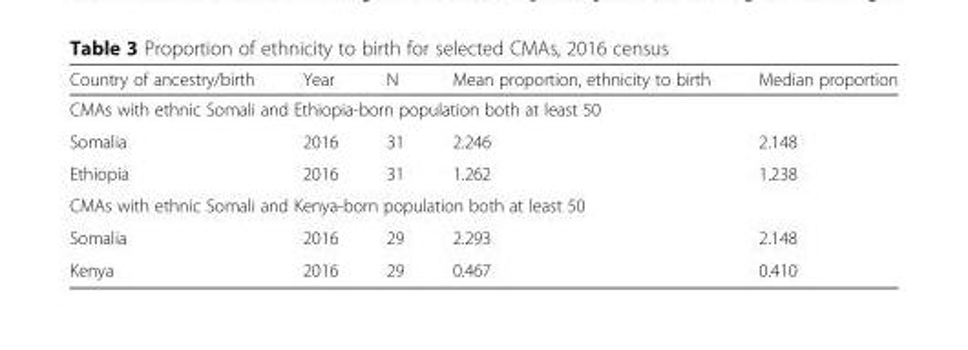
<table><thead><tr><td>Country of ancestry/birth</td><td>Year</td><td>N</td><td>Mean proportion, ethnicity to birth</td><td>Median proportion</td></tr></thead><tbody><tr><td colspan="5">CMAs with ethnic Somali and Ethiopia-born population both at least 50</td></tr><tr><td>Somalia</td><td>2016</td><td>31</td><td>2.246</td><td>2.148</td></tr><tr><td>Ethiopia</td><td>2016</td><td>31</td><td>1.262</td><td>1.238</td></tr><tr><td colspan="5">CMAs with ethnic Somali and Kenya-born population both at least 50</td></tr><tr><td>Somalia</td><td>2016</td><td>29</td><td>2.293</td><td>2.148</td></tr><tr><td>Kenya</td><td>2016</td><td>29</td><td>0.467</td><td>0.410</td></tr></tbody></table>